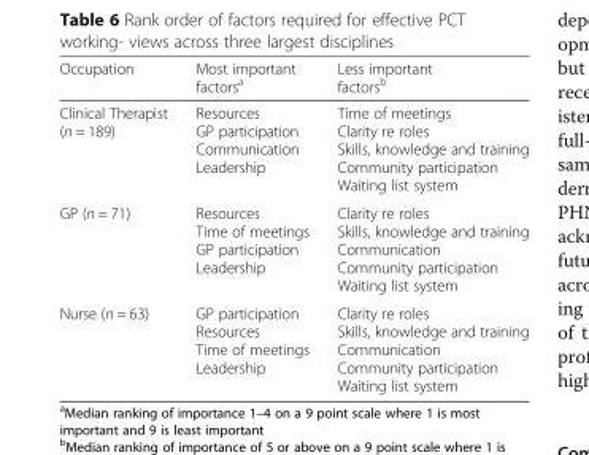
<table><thead><tr><td>Occupation</td><td>Most important factors<sup>a</sup></td><td>Less important factors<sup>b</sup></td></tr></thead><tbody><tr><td>Clinical Therapist (n = 189)</td><td>Resources GP participation Communication Leadership</td><td>Time of meetings Clarity re roles Skills, knowledge and training Community participation Waiting list system</td></tr><tr><td>GP (n = 71)</td><td>Resources Time of meetings GP participation Leadership</td><td>Clarity re roles Skills, knowledge and training Communication Community participation Waiting list system</td></tr><tr><td>Nurse (n = 63)</td><td>GP participation Resources Time of meetings Leadership</td><td>Clarity re roles Skills, knowledge and training Communication Community participation Waiting list system</td></tr></tbody></table>